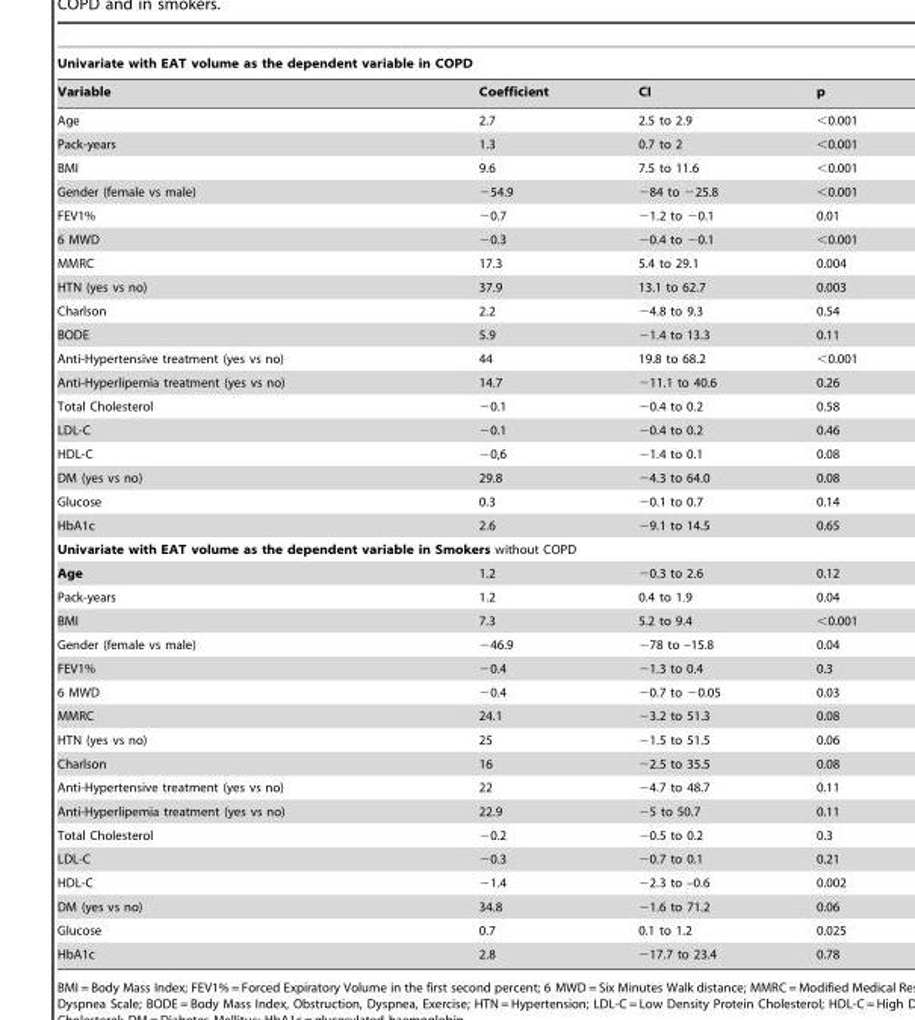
<table><thead><tr><td colspan="4">Univariate with EAT volume as the dependent variable in COPD</td></tr><tr><td>Variable</td><td>Coefficient</td><td>CI</td><td>p</td></tr></thead><tbody><tr><td>Age</td><td>2.7</td><td>2.5 to 2.9</td><td>&lt;0.001</td></tr><tr><td>Pack-years</td><td>1.3</td><td>0.7 to 2</td><td>&lt;0.001</td></tr><tr><td>BMI</td><td>9.6</td><td>7.5 to 11.6</td><td>&lt;0.001</td></tr><tr><td>Gender (female vs male)</td><td>−54.9</td><td>−84 to −25.8</td><td>&lt;0.001</td></tr><tr><td>FEV1%</td><td>−0.7</td><td>−1.2 to −0.1</td><td>0.01</td></tr><tr><td>6 MWD</td><td>−0.3</td><td>−0.4 to −0.1</td><td>&lt;0.001</td></tr><tr><td>MMRC</td><td>17.3</td><td>5.4 to 29.1</td><td>0.004</td></tr><tr><td>HTN (yes vs no)</td><td>37.9</td><td>13.1 to 62.7</td><td>0.003</td></tr><tr><td>Charlson</td><td>2.2</td><td>−4.8 to 9.3</td><td>0.54</td></tr><tr><td>BODE</td><td>5.9</td><td>−1.4 to 13.3</td><td>0.11</td></tr><tr><td>Anti-Hypertensive treatment (yes vs no)</td><td>44</td><td>19.8 to 68.2</td><td>&lt;0.001</td></tr><tr><td>Anti-Hyperlipemia treatment (yes vs no)</td><td>14.7</td><td>−11.1 to 40.6</td><td>0.26</td></tr><tr><td>Total Cholesterol</td><td>−0.1</td><td>−0.4 to 0.2</td><td>0.58</td></tr><tr><td>LDL-C</td><td>−0.1</td><td>−0.4 to 0.2</td><td>0.46</td></tr><tr><td>HDL-C</td><td>−0,6</td><td>−1.4 to 0.1</td><td>0.08</td></tr><tr><td>DM (yes vs no)</td><td>29.8</td><td>−4.3 to 64.0</td><td>0.08</td></tr><tr><td>Glucose</td><td>0.3</td><td>−0.1 to 0.7</td><td>0.14</td></tr><tr><td>HbA1c</td><td>2.6</td><td>−9.1 to 14.5</td><td>0.65</td></tr><tr><td colspan="4">Univariate with EAT volume as the dependent variable in Smokers without COPD</td></tr><tr><td>Age</td><td>1.2</td><td>−0.3 to 2.6</td><td>0.12</td></tr><tr><td>Pack-years</td><td>1.2</td><td>0.4 to 1.9</td><td>0.04</td></tr><tr><td>BMI</td><td>7.3</td><td>5.2 to 9.4</td><td>&lt;0.001</td></tr><tr><td>Gender (female vs male)</td><td>−46.9</td><td>−78 to –15.8</td><td>0.04</td></tr><tr><td>FEV1%</td><td>−0.4</td><td>−1.3 to 0.4</td><td>0.3</td></tr><tr><td>6 MWD</td><td>−0.4</td><td>−0.7 to −0.05</td><td>0.03</td></tr><tr><td>MMRC</td><td>24.1</td><td>−3.2 to 51.3</td><td>0.08</td></tr><tr><td>HTN (yes vs no)</td><td>25</td><td>−1.5 to 51.5</td><td>0.06</td></tr><tr><td>Charlson</td><td>16</td><td>−2.5 to 35.5</td><td>0.08</td></tr><tr><td>Anti-Hypertensive treatment (yes vs no)</td><td>22</td><td>−4.7 to 48.7</td><td>0.11</td></tr><tr><td>Anti-Hyperlipemia treatment (yes vs no)</td><td>22.9</td><td>−5 to 50.7</td><td>0.11</td></tr><tr><td>Total Cholesterol</td><td>−0.2</td><td>−0.5 to 0.2</td><td>0.3</td></tr><tr><td>LDL-C</td><td>−0.3</td><td>−0.7 to 0.1</td><td>0.21</td></tr><tr><td>HDL-C</td><td>−1.4</td><td>−2.3 to –0.6</td><td>0.002</td></tr><tr><td>DM (yes vs no)</td><td>34.8</td><td>−1.6 to 71.2</td><td>0.06</td></tr><tr><td>Glucose</td><td>0.7</td><td>0.1 to 1.2</td><td>0.025</td></tr><tr><td>HbA1c</td><td>2.8</td><td>−17.7 to 23.4</td><td>0.78</td></tr></tbody></table>